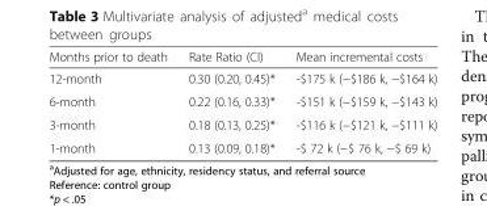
<table><thead><tr><td>Months prior to death</td><td>Rate Ratio (CI)</td><td>Mean incremental costs</td></tr></thead><tbody><tr><td>12-month</td><td>0.30 (0.20, 0.45)*</td><td>-$175 k (−$186 k, −$164 k)</td></tr><tr><td>6-month</td><td>0.22 (0.16, 0.33)*</td><td>-$151 k (−$159 k, −$143 k)</td></tr><tr><td>3-month</td><td>0.18 (0.13, 0.25)*</td><td>-$116 k (−$121 k, −$111 k)</td></tr><tr><td>1-month</td><td>0.13 (0.09, 0.18)*</td><td>-$ 72 k (−$ 76 k, −$ 69 k)</td></tr></tbody></table>